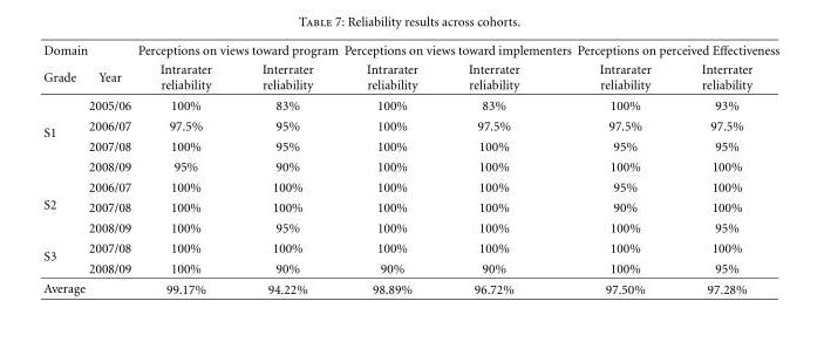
<table><thead><tr><td colspan="2">Domain</td><td colspan="2">Perceptions on views toward program</td><td colspan="2">Perceptions on views toward implementers</td><td colspan="2">Perceptions on perceived Effectiveness</td></tr><tr><td>Grade</td><td>Year</td><td>Intrarater reliability</td><td>Interrater reliability</td><td>Intrarater reliability</td><td>Interrater reliability</td><td>Intrarater reliability</td><td>Interrater reliability</td></tr></thead><tbody><tr><td rowspan="4">S1</td><td>2005/06</td><td>100%</td><td>83%</td><td>100%</td><td>83%</td><td>100%</td><td>93%</td></tr><tr><td>2006/07</td><td>97.5%</td><td>95%</td><td>100%</td><td>97.5%</td><td>97.5%</td><td>97.5%</td></tr><tr><td>2007/08</td><td>100%</td><td>95%</td><td>100%</td><td>100%</td><td>95%</td><td>95%</td></tr><tr><td>2008/09</td><td>95%</td><td>90%</td><td>100%</td><td>100%</td><td>100%</td><td>100%</td></tr><tr><td rowspan="3">S2</td><td>2006/07</td><td>100%</td><td>100%</td><td>100%</td><td>100%</td><td>95%</td><td>100%</td></tr><tr><td>2007/08</td><td>100%</td><td>100%</td><td>100%</td><td>100%</td><td>90%</td><td>100%</td></tr><tr><td>2008/09</td><td>100%</td><td>95%</td><td>100%</td><td>100%</td><td>100%</td><td>95%</td></tr><tr><td rowspan="2">S3</td><td>2007/08</td><td>100%</td><td>100%</td><td>100%</td><td>100%</td><td>100%</td><td>100%</td></tr><tr><td>2008/09</td><td>100%</td><td>90%</td><td>90%</td><td>90%</td><td>100%</td><td>95%</td></tr><tr><td colspan="2">Average</td><td>99.17%</td><td>94.22%</td><td>98.89%</td><td>96.72%</td><td>97.50%</td><td>97.28%</td></tr></tbody></table>